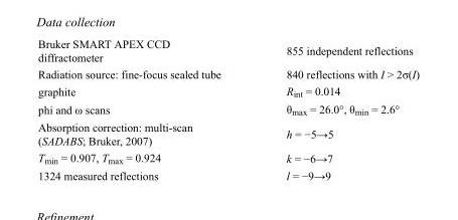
<table><tbody><tr><td>Bruker SMART APEX CCD diffractometer</td><td>855 independent reflections</td></tr><tr><td>Radiation source: fine-focus sealed tube</td><td>840 reflections with I &gt; 2σ(I)</td></tr><tr><td>graphite</td><td>R<sub>int</sub> = 0.014</td></tr><tr><td>phi and ω scans</td><td>θ<sub>max</sub> = 26.0°, θ<sub>min</sub> = 2.6°</td></tr><tr><td>Absorption correction: multi-scan (SADABS; Bruker, 2007)</td><td>h = −5→5</td></tr><tr><td>T<sub>min</sub> = 0.907, T<sub>max</sub> = 0.924</td><td>k = −6→7</td></tr><tr><td>1324 measured reflections</td><td>l = −9→9</td></tr></tbody></table>